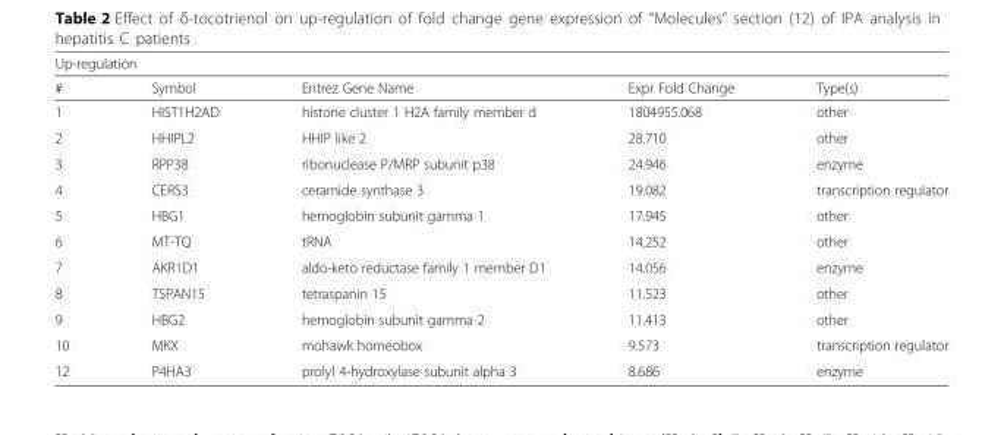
<table><thead><tr><td colspan="5">Up-regulation</td></tr><tr><td>#</td><td>Symbol</td><td>Entrez Gene Name</td><td>Expr Fold Change</td><td>Type(s)</td></tr></thead><tbody><tr><td>1</td><td>HIST1H2AD</td><td>histone cluster 1 H2A family member d</td><td>1804955.068</td><td>other</td></tr><tr><td>2</td><td>HHIPL2</td><td>HHIP like 2</td><td>28.710</td><td>other</td></tr><tr><td>3</td><td>RPP38</td><td>ribonuclease P/MRP subunit p38</td><td>24.946</td><td>enzyme</td></tr><tr><td>4</td><td>CERS3</td><td>ceramide synthase 3</td><td>19.082</td><td>transcription regulator</td></tr><tr><td>5</td><td>HBG1</td><td>hemoglobin subunit gamma 1</td><td>17.945</td><td>other</td></tr><tr><td>6</td><td>MT-TQ</td><td>tRNA</td><td>14.252</td><td>other</td></tr><tr><td>7</td><td>AKR1D1</td><td>aldo-keto reductase family 1 member D1</td><td>14.056</td><td>enzyme</td></tr><tr><td>8</td><td>TSPAN15</td><td>tetraspanin 15</td><td>11.523</td><td>other</td></tr><tr><td>9</td><td>HBG2</td><td>hemoglobin subunit gamma 2</td><td>11.413</td><td>other</td></tr><tr><td>10</td><td>MKX</td><td>mohawk homeobox</td><td>9.573</td><td>transcription regulator</td></tr><tr><td>12</td><td>P4HA3</td><td>prolyl 4-hydroxylase subunit alpha 3</td><td>8.686</td><td>enzyme</td></tr></tbody></table>